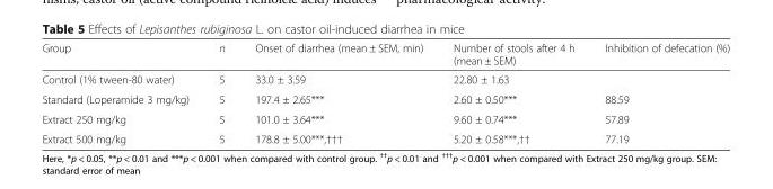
<table><thead><tr><td>Group</td><td>n</td><td>Onset of diarrhea (mean ± SEM, min)</td><td>Number of stools after 4 h (mean ± SEM)</td><td>Inhibition of defecation (%)</td></tr></thead><tbody><tr><td>Control (1% tween-80 water)</td><td>5</td><td>33.0 ± 3.59</td><td>22.80 ± 1.63</td><td></td></tr><tr><td>Standard (Loperamide 3 mg/kg)</td><td>5</td><td>197.4 ± 2.65***</td><td>2.60 ± 0.50***</td><td>88.59</td></tr><tr><td>Extract 250 mg/kg</td><td>5</td><td>101.0 ± 3.64***</td><td>9.60 ± 0.74***</td><td>57.89</td></tr><tr><td>Extract 500 mg/kg</td><td>5</td><td>178.8 ± 5.00***,†††</td><td>5.20 ± 0.58***,††</td><td>77.19</td></tr></tbody></table>